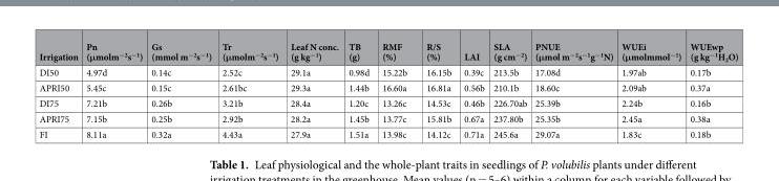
<table><thead><tr><td>Irrigation</td><td>Pn (μmolm<sup>−2</sup>s<sup>−1</sup>)</td><td>Gs (mmol m<sup>−2</sup>s<sup>−1</sup>)</td><td>Tr (μmolm<sup>−2</sup>s<sup>−1</sup>)</td><td>Leaf N conc. (g kg<sup>−1</sup>)</td><td>TB (g)</td><td>RMF (%)</td><td>R/S (%)</td><td>LAI</td><td>SLA (g cm<sup>−2</sup>)</td><td>PNUE (μmol m<sup>−2</sup>s<sup>−1</sup>g<sup>−1</sup>N)</td><td>WUEi (μmolmmol<sup>−1</sup>)</td><td>WUEwp (g kg<sup>−1</sup>H<sub>2</sub>O)</td></tr></thead><tbody><tr><td>DI50</td><td>4.97d</td><td>0.14c</td><td>2.52c</td><td>29.1a</td><td>0.98d</td><td>15.22b</td><td>16.15b</td><td>0.39c</td><td>213.5b</td><td>17.08d</td><td>1.97ab</td><td>0.17b</td></tr><tr><td>APRI50</td><td>5.45c</td><td>0.15c</td><td>2.61bc</td><td>29.3a</td><td>1.44b</td><td>16.60a</td><td>16.81a</td><td>0.56b</td><td>210.1b</td><td>18.60c</td><td>2.09ab</td><td>0.37a</td></tr><tr><td>DI75</td><td>7.21b</td><td>0.26b</td><td>3.21b</td><td>28.4a</td><td>1.20c</td><td>13.26c</td><td>14.53c</td><td>0.46b</td><td>226.70ab</td><td>25.39b</td><td>2.24b</td><td>0.16b</td></tr><tr><td>APRI75</td><td>7.15b</td><td>0.25b</td><td>2.92b</td><td>28.2a</td><td>1.45b</td><td>13.77c</td><td>15.81b</td><td>0.67a</td><td>237.80b</td><td>25.35b</td><td>2.45a</td><td>0.38a</td></tr><tr><td>FI</td><td>8.11a</td><td>0.32a</td><td>4.43a</td><td>27.9a</td><td>1.51a</td><td>13.98c</td><td>14.12c</td><td>0.71a</td><td>245.6a</td><td>29.07a</td><td>1.83c</td><td>0.18b</td></tr></tbody></table>